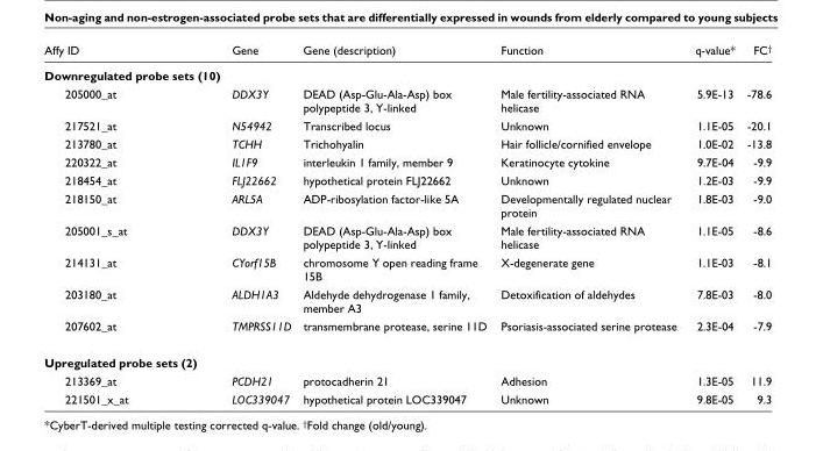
<table><thead><tr><td>Affy ID</td><td>Gene</td><td>Gene (description)</td><td>Function</td><td>q-value*</td><td>FC<sup>†</sup></td></tr></thead><tbody><tr><td colspan="6">Downregulated probe sets (10)</td></tr><tr><td>205000_at</td><td>DDX3Y</td><td>DEAD (Asp-Glu-Ala-Asp) box polypeptide 3, Y-linked</td><td>Male fertility-associated RNA helicase</td><td>5.9E-13</td><td>-78.6</td></tr><tr><td>217521_at</td><td>N54942</td><td>Transcribed locus</td><td>Unknown</td><td>1.1E-05</td><td>-20.1</td></tr><tr><td>213780_at</td><td>TCHH</td><td>Trichohyalin</td><td>Hair follicle/cornified envelope</td><td>1.0E-02</td><td>-13.8</td></tr><tr><td>220322_at</td><td>IL1F9</td><td>interleukin 1 family, member 9</td><td>Keratinocyte cytokine</td><td>9.7E-04</td><td>-9.9</td></tr><tr><td>218454_at</td><td>FLJ22662</td><td>hypothetical protein FLJ22662</td><td>Unknown</td><td>1.2E-03</td><td>-9.9</td></tr><tr><td>218150_at</td><td>ARL5A</td><td>ADP-ribosylation factor-like 5A</td><td>Developmentally regulated nuclear protein</td><td>1.8E-03</td><td>-9.0</td></tr><tr><td>205001_s_at</td><td>DDX3Y</td><td>DEAD (Asp-Glu-Ala-Asp) box polypeptide 3, Y-linked</td><td>Male fertility-associated RNA helicase</td><td>1.1E-05</td><td>-8.6</td></tr><tr><td>214131_at</td><td>CYorf15B</td><td>chromosome Y open reading frame 15B</td><td>X-degenerate gene</td><td>1.1E-03</td><td>-8.1</td></tr><tr><td>203180_at</td><td>ALDH1A3</td><td>Aldehyde dehydrogenase 1 family, member A3</td><td>Detoxification of aldehydes</td><td>7.8E-03</td><td>-8.0</td></tr><tr><td>207602_at</td><td>TMPRSS11D</td><td>transmembrane protease, serine 11D</td><td>Psoriasis-associated serine protease</td><td>2.3E-04</td><td>-7.9</td></tr><tr><td colspan="6">Upregulated probe sets (2)</td></tr><tr><td>213369_at</td><td>PCDH21</td><td>protocadherin 21</td><td>Adhesion</td><td>1.3E-05</td><td>11.9</td></tr><tr><td>221501_x_at</td><td>LOC339047</td><td>hypothetical protein LOC339047</td><td>Unknown</td><td>9.8E-05</td><td>9.3</td></tr></tbody></table>